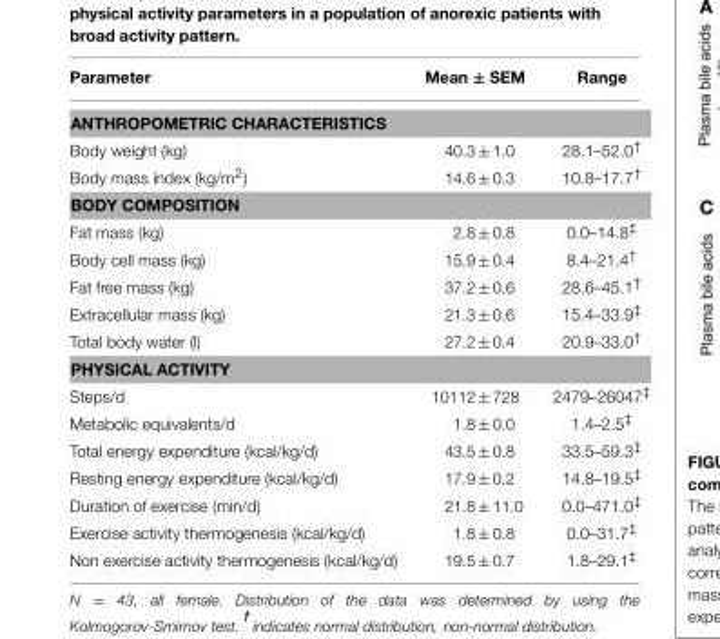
<table><thead><tr><td>Parameter</td><td>Mean ± SEM</td><td>Range</td></tr></thead><tbody><tr><td colspan="3">ANTHROPOMETRIC CHARACTERISTICS</td></tr><tr><td>Body weight (kg)</td><td>40.3 ± 1.0</td><td>28.1–52.0<sup>†</sup></td></tr><tr><td>Body mass index (kg/m<sup>2</sup>)</td><td>14.6 ± 0.3</td><td>10.8–17.7<sup>†</sup></td></tr><tr><td colspan="3">BODY COMPOSITION</td></tr><tr><td>Fat mass (kg)</td><td>2.8 ± 0.8</td><td>0.0–14.8<sup>‡</sup></td></tr><tr><td>Body cell mass (kg)</td><td>15.9 ± 0.4</td><td>8.4–21.4<sup>†</sup></td></tr><tr><td>Fat free mass (kg)</td><td>37.2 ± 0.6</td><td>28.6–45.1<sup>†</sup></td></tr><tr><td>Extracellular mass (kg)</td><td>21.3 ± 0.6</td><td>15.4–33.9<sup>‡</sup></td></tr><tr><td>Total body water (l)</td><td>27.2 ± 0.4</td><td>20.9–33.0<sup>†</sup></td></tr><tr><td colspan="3">PHYSICAL ACTIVITY</td></tr><tr><td>Steps/d</td><td>10112 ± 728</td><td>2479–26047<sup>‡</sup></td></tr><tr><td>Metabolic equivalents/d</td><td>1.8 ± 0.0</td><td>1.4–2.5<sup>‡</sup></td></tr><tr><td>Total energy expenditure (kcal/kg/d)</td><td>43.5 ± 0.8</td><td>33.5–59.3<sup>‡</sup></td></tr><tr><td>Resting energy expenditure (kcal/kg/d)</td><td>17.9 ± 0.2</td><td>14.8–19.5<sup>‡</sup></td></tr><tr><td>Duration of exercise (min/d)</td><td>21.8 ± 11.0</td><td>0.0–471.0<sup>‡</sup></td></tr><tr><td>Exercise activity thermogenesis (kcal/kg/d)</td><td>1.8 ± 0.8</td><td>0.0–31.7<sup>‡</sup></td></tr><tr><td>Non exercise activity thermogenesis (kcal/kg/d)</td><td>19.5 ± 0.7</td><td>1.8–29.1<sup>‡</sup></td></tr></tbody></table>